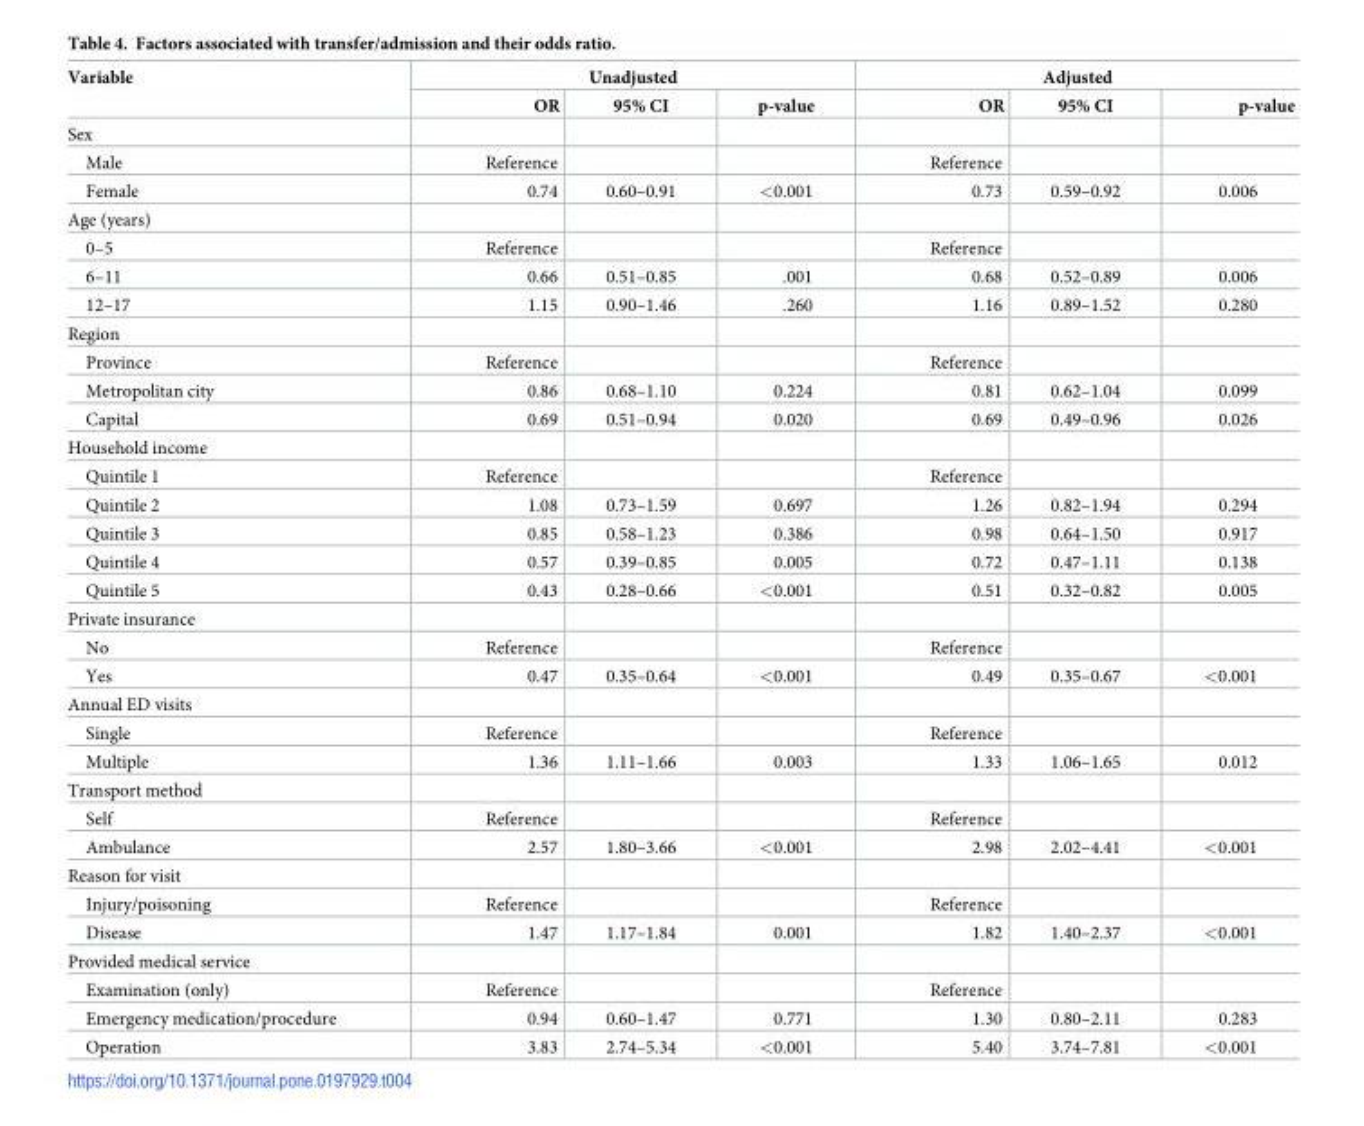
<table><thead><tr><td rowspan="2">Variable</td><td colspan="3">Unadjusted</td><td colspan="3">Adjusted</td></tr><tr><td>OR</td><td>95% CI</td><td>p-value</td><td>OR</td><td>95% CI</td><td>p-value</td></tr></thead><tbody><tr><td colspan="7">Sex</td></tr><tr><td>Male</td><td>Reference</td><td></td><td></td><td>Reference</td><td></td><td></td></tr><tr><td>Female</td><td>0.74</td><td>0.60–0.91</td><td>&lt;0.001</td><td>0.73</td><td>0.59–0.92</td><td>0.006</td></tr><tr><td colspan="7">Age (years)</td></tr><tr><td>0–5</td><td>Reference</td><td></td><td></td><td>Reference</td><td></td><td></td></tr><tr><td>6–11</td><td>0.66</td><td>0.51–0.85</td><td>.001</td><td>0.68</td><td>0.52–0.89</td><td>0.006</td></tr><tr><td>12–17</td><td>1.15</td><td>0.90–1.46</td><td>.260</td><td>1.16</td><td>0.89–1.52</td><td>0.280</td></tr><tr><td colspan="7">Region</td></tr><tr><td>Province</td><td>Reference</td><td></td><td></td><td>Reference</td><td></td><td></td></tr><tr><td>Metropolitan city</td><td>0.86</td><td>0.68–1.10</td><td>0.224</td><td>0.81</td><td>0.62–1.04</td><td>0.099</td></tr><tr><td>Capital</td><td>0.69</td><td>0.51–0.94</td><td>0.020</td><td>0.69</td><td>0.49–0.96</td><td>0.026</td></tr><tr><td colspan="7">Household income</td></tr><tr><td>Quintile 1</td><td>Reference</td><td></td><td></td><td>Reference</td><td></td><td></td></tr><tr><td>Quintile 2</td><td>1.08</td><td>0.73–1.59</td><td>0.697</td><td>1.26</td><td>0.82–1.94</td><td>0.294</td></tr><tr><td>Quintile 3</td><td>0.85</td><td>0.58–1.23</td><td>0.386</td><td>0.98</td><td>0.64–1.50</td><td>0.917</td></tr><tr><td>Quintile 4</td><td>0.57</td><td>0.39–0.85</td><td>0.005</td><td>0.72</td><td>0.47–1.11</td><td>0.138</td></tr><tr><td>Quintile 5</td><td>0.43</td><td>0.28–0.66</td><td>&lt;0.001</td><td>0.51</td><td>0.32–0.82</td><td>0.005</td></tr><tr><td colspan="7">Private insurance</td></tr><tr><td>No</td><td>Reference</td><td></td><td></td><td>Reference</td><td></td><td></td></tr><tr><td>Yes</td><td>0.47</td><td>0.35–0.64</td><td>&lt;0.001</td><td>0.49</td><td>0.35–0.67</td><td>&lt;0.001</td></tr><tr><td colspan="7">Annual ED visits</td></tr><tr><td>Single</td><td>Reference</td><td></td><td></td><td>Reference</td><td></td><td></td></tr><tr><td>Multiple</td><td>1.36</td><td>1.11–1.66</td><td>0.003</td><td>1.33</td><td>1.06–1.65</td><td>0.012</td></tr><tr><td colspan="7">Transport method</td></tr><tr><td>Self</td><td>Reference</td><td></td><td></td><td>Reference</td><td></td><td></td></tr><tr><td>Ambulance</td><td>2.57</td><td>1.80–3.66</td><td>&lt;0.001</td><td>2.98</td><td>2.02–4.41</td><td>&lt;0.001</td></tr><tr><td colspan="7">Reason for visit</td></tr><tr><td>Injury/poisoning</td><td>Reference</td><td></td><td></td><td>Reference</td><td></td><td></td></tr><tr><td>Disease</td><td>1.47</td><td>1.17–1.84</td><td>0.001</td><td>1.82</td><td>1.40–2.37</td><td>&lt;0.001</td></tr><tr><td colspan="7">Provided medical service</td></tr><tr><td>Examination (only)</td><td>Reference</td><td></td><td></td><td>Reference</td><td></td><td></td></tr><tr><td>Emergency medication/procedure</td><td>0.94</td><td>0.60–1.47</td><td>0.771</td><td>1.30</td><td>0.80–2.11</td><td>0.283</td></tr><tr><td>Operation</td><td>3.83</td><td>2.74–5.34</td><td>&lt;0.001</td><td>5.40</td><td>3.74–7.81</td><td>&lt;0.001</td></tr></tbody></table>